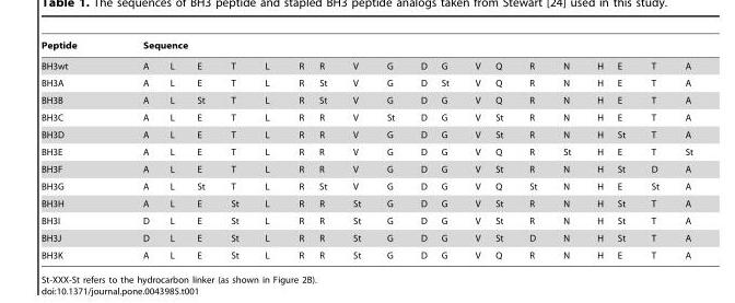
<table><thead><tr><td rowspan="2">Peptide BH3wt</td><td colspan="19">Sequence</td></tr><tr><td>A</td><td>L</td><td>E</td><td>T</td><td>L</td><td>R</td><td>R</td><td>V</td><td>G</td><td>D</td><td>G</td><td>V</td><td>Q</td><td>R</td><td>N</td><td>H</td><td>E</td><td>T</td><td>A</td></tr></thead><tbody><tr><td>BH3A</td><td>A</td><td>L</td><td>E</td><td>T</td><td>L</td><td>R</td><td>St</td><td>V</td><td>G</td><td>D</td><td>St</td><td>V</td><td>Q</td><td>R</td><td>N</td><td>H</td><td>E</td><td>T</td><td>A</td></tr><tr><td>BH3B</td><td>A</td><td>L</td><td>St</td><td>T</td><td>L</td><td>R</td><td>St</td><td>V</td><td>G</td><td>D</td><td>G</td><td>V</td><td>Q</td><td>R</td><td>N</td><td>H</td><td>E</td><td>T</td><td>A</td></tr><tr><td>BH3C</td><td>A</td><td>L</td><td>E</td><td>T</td><td>L</td><td>R</td><td>R</td><td>V</td><td>St</td><td>D</td><td>G</td><td>V</td><td>St</td><td>R</td><td>N</td><td>H</td><td>E</td><td>T</td><td>A</td></tr><tr><td>BH3D</td><td>A</td><td>L</td><td>E</td><td>T</td><td>L</td><td>R</td><td>R</td><td>V</td><td>G</td><td>D</td><td>G</td><td>V</td><td>St</td><td>R</td><td>N</td><td>H</td><td>St</td><td>T</td><td>A</td></tr><tr><td>BH3E</td><td>A</td><td>L</td><td>E</td><td>T</td><td>L</td><td>R</td><td>R</td><td>V</td><td>G</td><td>D</td><td>G</td><td>V</td><td>Q</td><td>R</td><td>St</td><td>H</td><td>E</td><td>T</td><td>St</td></tr><tr><td>BH3F</td><td>A</td><td>L</td><td>E</td><td>T</td><td>L</td><td>R</td><td>R</td><td>V</td><td>G</td><td>D</td><td>G</td><td>V</td><td>St</td><td>R</td><td>N</td><td>H</td><td>St</td><td>D</td><td>A</td></tr><tr><td>BH3G</td><td>A</td><td>L</td><td>St</td><td>T</td><td>L</td><td>R</td><td>St</td><td>V</td><td>G</td><td>D</td><td>G</td><td>V</td><td>Q</td><td>St</td><td>N</td><td>H</td><td>E</td><td>St</td><td>A</td></tr><tr><td>BH3H</td><td>A</td><td>L</td><td>E</td><td>St</td><td>L</td><td>R</td><td>R</td><td>St</td><td>G</td><td>D</td><td>G</td><td>V</td><td>St</td><td>R</td><td>N</td><td>H</td><td>St</td><td>T</td><td>A</td></tr><tr><td>BH3I</td><td>D</td><td>L</td><td>E</td><td>St</td><td>L</td><td>R</td><td>R</td><td>St</td><td>G</td><td>D</td><td>G</td><td>V</td><td>St</td><td>R</td><td>N</td><td>H</td><td>St</td><td>T</td><td>A</td></tr><tr><td>BH3J</td><td>D</td><td>L</td><td>E</td><td>St</td><td>L</td><td>R</td><td>R</td><td>St</td><td>G</td><td>D</td><td>G</td><td>V</td><td>St</td><td>D</td><td>N</td><td>H</td><td>St</td><td>T</td><td>A</td></tr><tr><td>BH3K</td><td>A</td><td>L</td><td>E</td><td>St</td><td>L</td><td>R</td><td>R</td><td>St</td><td>G</td><td>D</td><td>G</td><td>V</td><td>Q</td><td>R</td><td>N</td><td>H</td><td>E</td><td>T</td><td>A</td></tr></tbody></table>